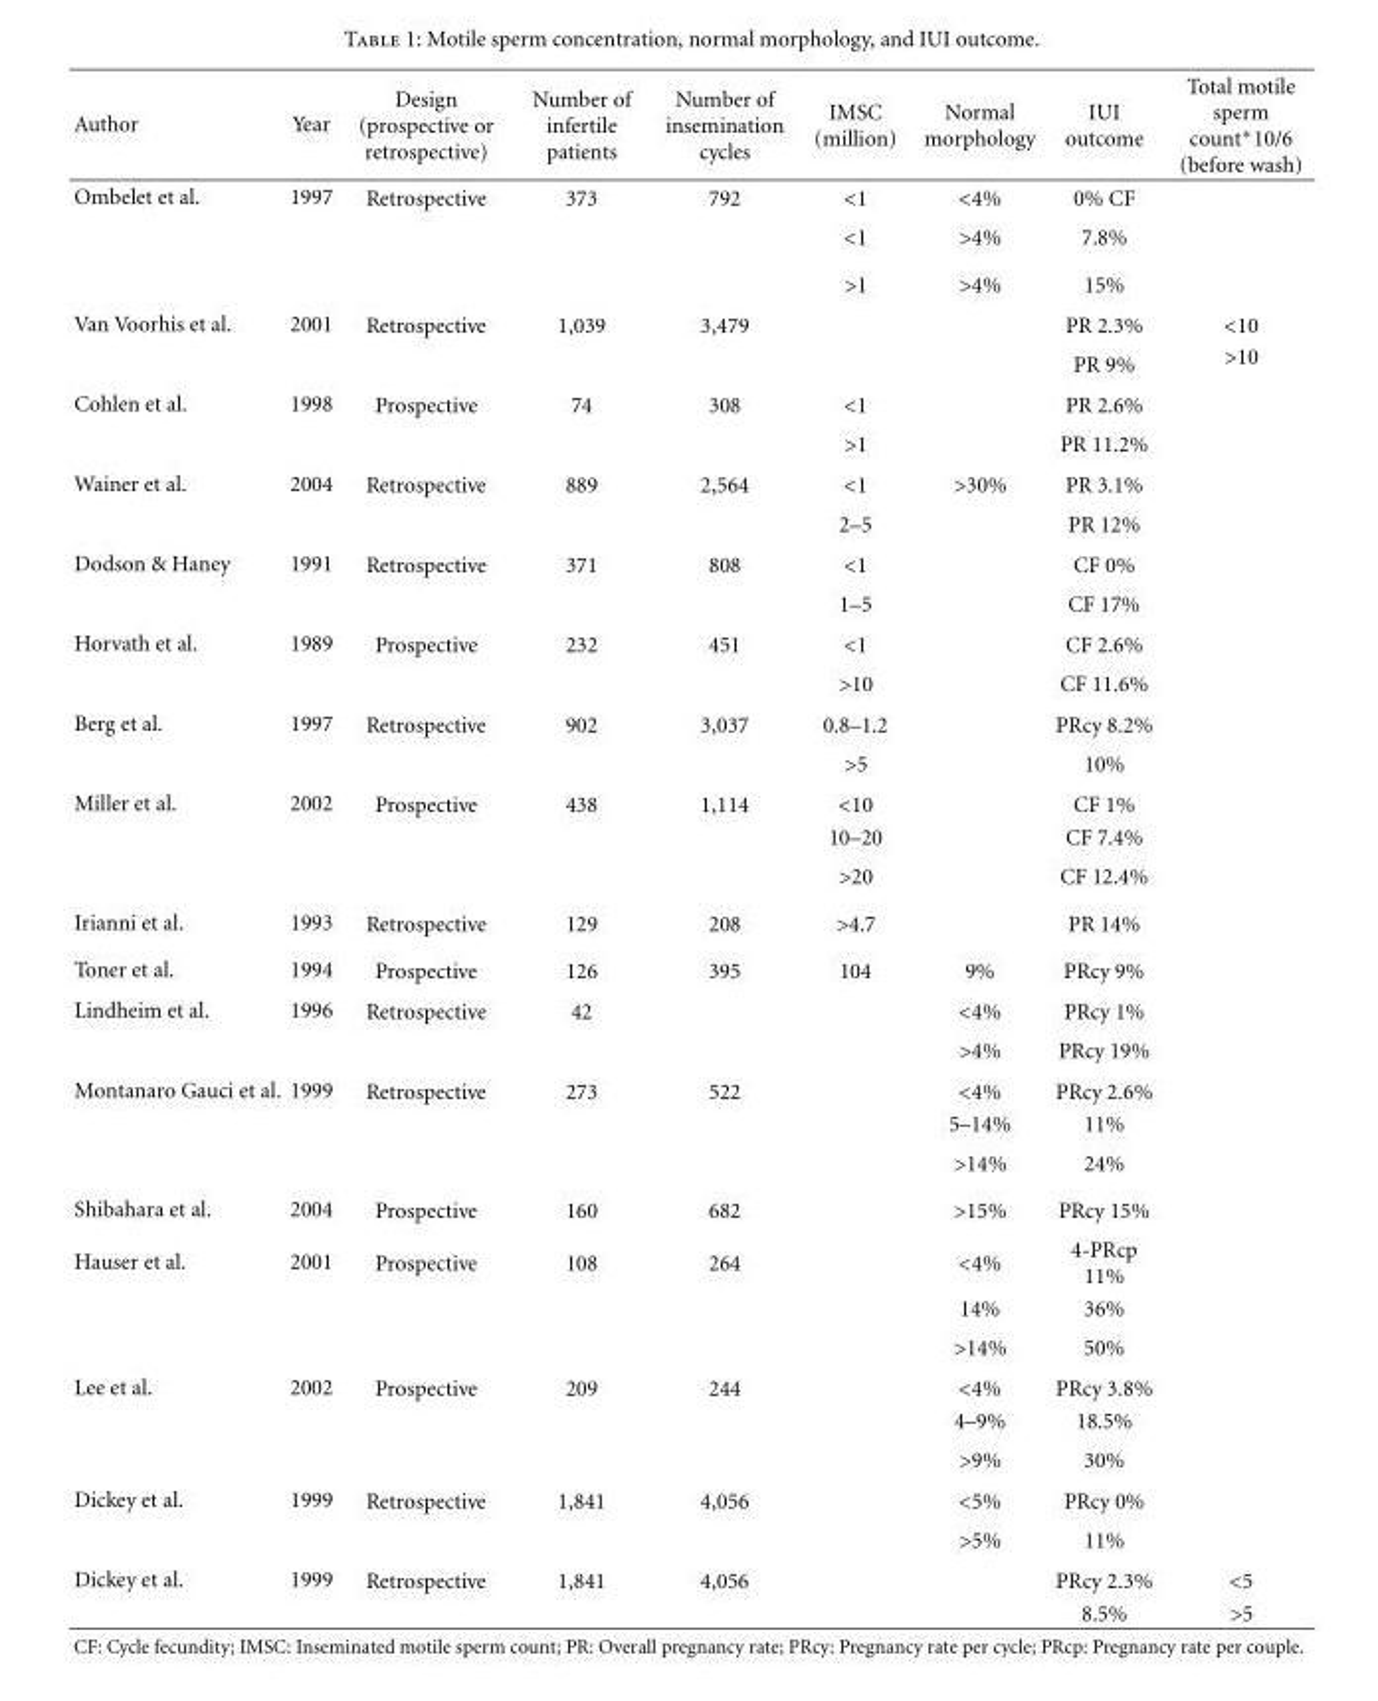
<table><thead><tr><td>Author</td><td>Year</td><td>Design (prospective or retrospective)</td><td>Number of infertile patients</td><td>Number of insemination cycles</td><td>IMSC (million)</td><td>Normal morphology</td><td>IUI outcome</td><td>Total motile sperm count∗10/6 (before wash)</td></tr></thead><tbody><tr><td rowspan="3">Ombelet et al.</td><td>1997</td><td>Retrospective</td><td>373</td><td>792</td><td>&lt;1</td><td>&lt;4%</td><td>0% CF</td><td></td></tr><tr><td></td><td></td><td></td><td></td><td>&lt;1</td><td>&gt;4%</td><td>7.8%</td><td></td></tr><tr><td></td><td></td><td></td><td></td><td>&gt;1</td><td>&gt;4%</td><td>15%</td><td></td></tr><tr><td rowspan="2">Van Voorhis et al.</td><td>2001</td><td>Retrospective</td><td>1,039</td><td>3,479</td><td></td><td></td><td>PR 2.3%</td><td>&lt;10</td></tr><tr><td></td><td></td><td></td><td></td><td></td><td></td><td>PR 9%</td><td>&gt;10</td></tr><tr><td rowspan="2">Cohlen et al.</td><td>1998</td><td>Prospective</td><td>74</td><td>308</td><td>&lt;1</td><td></td><td>PR 2.6%</td><td></td></tr><tr><td></td><td></td><td></td><td></td><td>&gt;1</td><td></td><td>PR 11.2%</td><td></td></tr><tr><td rowspan="2">Wainer et al.</td><td>2004</td><td>Retrospective</td><td>889</td><td>2,564</td><td>&lt;1</td><td>&gt;30%</td><td>PR 3.1%</td><td></td></tr><tr><td></td><td></td><td></td><td></td><td>2–5</td><td></td><td>PR 12%</td><td></td></tr><tr><td rowspan="2">Dodson &amp; Haney</td><td>1991</td><td>Retrospective</td><td>371</td><td>808</td><td>&lt;1</td><td></td><td>CF 0%</td><td></td></tr><tr><td></td><td></td><td></td><td></td><td>1–5</td><td></td><td>CF 17%</td><td></td></tr><tr><td rowspan="2">Horvath et al.</td><td>1989</td><td>Prospective</td><td>232</td><td>451</td><td>&lt;1</td><td></td><td>CF 2.6%</td><td></td></tr><tr><td></td><td></td><td></td><td></td><td>&gt;10</td><td></td><td>CF 11.6%</td><td></td></tr><tr><td rowspan="2">Berg et al.</td><td>1997</td><td>Retrospective</td><td>902</td><td>3,037</td><td>0.8–1.2</td><td></td><td>PRcy 8.2%</td><td></td></tr><tr><td></td><td></td><td></td><td></td><td>&gt;5</td><td></td><td>10%</td><td></td></tr><tr><td rowspan="3">Miller et al.</td><td>2002</td><td>Prospective</td><td>438</td><td>1,114</td><td>&lt;10</td><td></td><td>CF 1%</td><td></td></tr><tr><td></td><td></td><td></td><td></td><td>10–20</td><td></td><td>CF 7.4%</td><td></td></tr><tr><td></td><td></td><td></td><td></td><td>&gt;20</td><td></td><td>CF 12.4%</td><td></td></tr><tr><td>Irianni et al.</td><td>1993</td><td>Retrospective</td><td>129</td><td>208</td><td>&gt;4.7</td><td></td><td>PR 14%</td><td></td></tr><tr><td>Toner et al.</td><td>1994</td><td>Prospective</td><td>126</td><td>395</td><td>104</td><td>9%</td><td>PRcy 9%</td><td></td></tr><tr><td rowspan="2">Lindheim et al.</td><td>1996</td><td>Retrospective</td><td>42</td><td></td><td></td><td>&lt;4%</td><td>PRcy 1%</td><td></td></tr><tr><td></td><td></td><td></td><td></td><td></td><td>&gt;4%</td><td>PRcy 19%</td><td></td></tr><tr><td rowspan="3">Montanaro Gauci et al.</td><td>1999</td><td>Retrospective</td><td>273</td><td>522</td><td></td><td>&lt;4%</td><td>PRcy 2.6%</td><td></td></tr><tr><td></td><td></td><td></td><td></td><td></td><td>5–14%</td><td>11%</td><td></td></tr><tr><td></td><td></td><td></td><td></td><td></td><td>&gt;14%</td><td>24%</td><td></td></tr><tr><td>Shibahara et al.</td><td>2004</td><td>Prospective</td><td>160</td><td>682</td><td></td><td>&gt;15%</td><td>PRcy 15%</td><td></td></tr><tr><td rowspan="3">Hauser et al.</td><td>2001</td><td>Prospective</td><td>108</td><td>264</td><td></td><td>&lt;4%</td><td>4-PRcp 11%</td><td></td></tr><tr><td></td><td></td><td></td><td></td><td></td><td>14%</td><td>36%</td><td></td></tr><tr><td></td><td></td><td></td><td></td><td></td><td>&gt;14%</td><td>50%</td><td></td></tr><tr><td rowspan="3">Lee et al.</td><td>2002</td><td>Prospective</td><td>209</td><td>244</td><td></td><td>&lt;4%</td><td>PRcy 3.8%</td><td></td></tr><tr><td></td><td></td><td></td><td></td><td></td><td>4–9%</td><td>18.5%</td><td></td></tr><tr><td></td><td></td><td></td><td></td><td></td><td>&gt;9%</td><td>30%</td><td></td></tr><tr><td rowspan="2">Dickey et al.</td><td>1999</td><td>Retrospective</td><td>1,841</td><td>4,056</td><td></td><td>&lt;5%</td><td>PRcy 0%</td><td></td></tr><tr><td></td><td></td><td></td><td></td><td></td><td>&gt;5%</td><td>11%</td><td></td></tr><tr><td rowspan="2">Dickey et al.</td><td>1999</td><td>Retrospective</td><td>1,841</td><td>4,056</td><td></td><td></td><td>PRcy 2.3%</td><td>&lt;5</td></tr><tr><td></td><td></td><td></td><td></td><td></td><td></td><td>8.5%</td><td>&gt;5</td></tr></tbody></table>